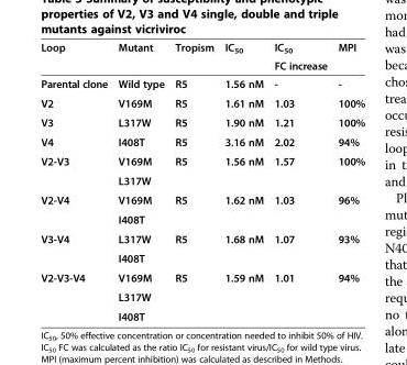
<table><thead><tr><td rowspan="2">Loop</td><td rowspan="2">Mutant</td><td rowspan="2">Tropism</td><td rowspan="2">IC<sub>50</sub></td><td rowspan="2">IC<sub>50</sub> FC increase</td><td rowspan="2">MPI</td></tr><tr></tr></thead><tbody><tr><td>Parental clone</td><td>Wild type</td><td>R5</td><td>1.56 nM</td><td>-</td><td>-</td></tr><tr><td>V2</td><td>V169M</td><td>R5</td><td>1.61 nM</td><td>1.03</td><td>100%</td></tr><tr><td>V3</td><td>L317W</td><td>R5</td><td>1.90 nM</td><td>1.21</td><td>100%</td></tr><tr><td>V4</td><td>I408T</td><td>R5</td><td>3.16 nM</td><td>2.02</td><td>94%</td></tr><tr><td rowspan="2">V2-V3</td><td>V169M</td><td rowspan="2">R5</td><td rowspan="2">1.56 nM</td><td rowspan="2">1.57</td><td rowspan="2">100%</td></tr><tr><td>L317W</td></tr><tr><td rowspan="2">V2-V4</td><td>V169M</td><td rowspan="2">R5</td><td rowspan="2">1.62 nM</td><td rowspan="2">1.03</td><td rowspan="2">96%</td></tr><tr><td>I408T</td></tr><tr><td rowspan="2">V3-V4</td><td>L317W</td><td rowspan="2">R5</td><td rowspan="2">1.68 nM</td><td rowspan="2">1.07</td><td rowspan="2">93%</td></tr><tr><td>I408T</td></tr><tr><td rowspan="3">V2-V3-V4</td><td>V169M</td><td rowspan="3">R5</td><td rowspan="3">1.59 nM</td><td rowspan="3">1.01</td><td rowspan="3">94%</td></tr><tr><td>L317W</td></tr><tr><td>I408T</td></tr></tbody></table>